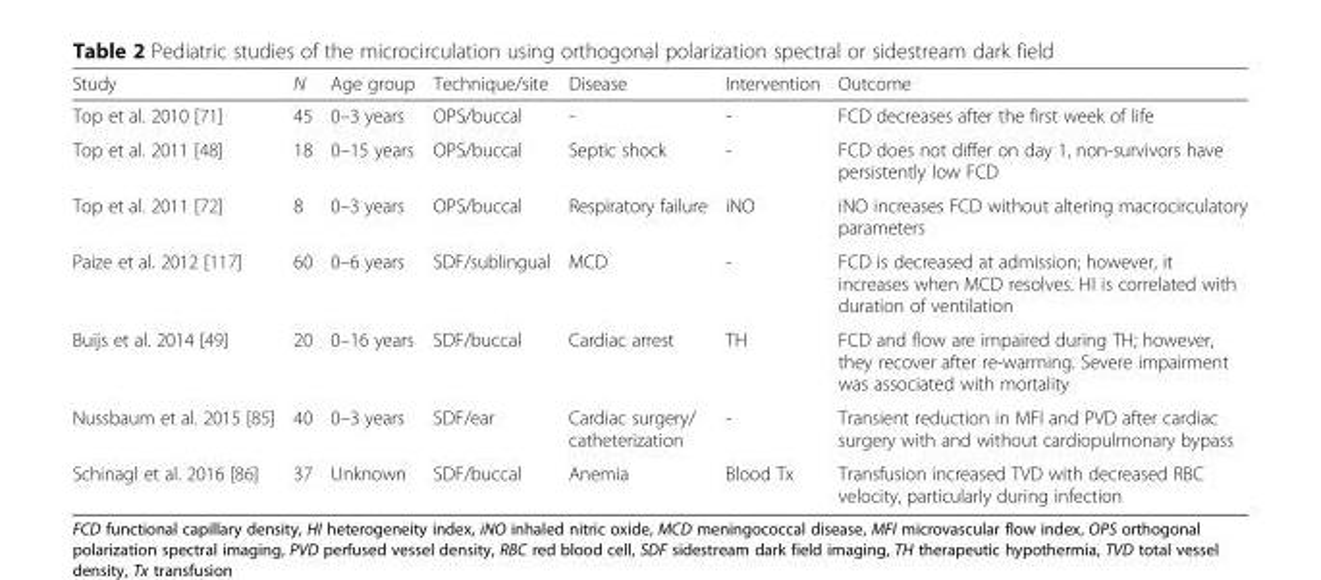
<table><thead><tr><td>Study</td><td>N</td><td>Age group</td><td>Technique/site</td><td>Disease</td><td>Intervention</td><td>Outcome</td></tr></thead><tbody><tr><td>Top et al. 2010 [71]</td><td>45</td><td>0–3 years</td><td>OPS/buccal</td><td>-</td><td>-</td><td>FCD decreases after the first week of life</td></tr><tr><td>Top et al. 2011 [48]</td><td>18</td><td>0–15 years</td><td>OPS/buccal</td><td>Septic shock</td><td>-</td><td>FCD does not differ on day 1, non-survivors have persistently low FCD</td></tr><tr><td>Top et al. 2011 [72]</td><td>8</td><td>0–3 years</td><td>OPS/buccal</td><td>Respiratory failure</td><td>iNO</td><td>iNO increases FCD without altering macrocirculatory parameters</td></tr><tr><td>Paize et al. 2012 [117]</td><td>60</td><td>0–6 years</td><td>SDF/sublingual</td><td>MCD</td><td>-</td><td>FCD is decreased at admission; however, it increases when MCD resolves. HI is correlated with duration of ventilation</td></tr><tr><td>Buijs et al. 2014 [49]</td><td>20</td><td>0–16 years</td><td>SDF/buccal</td><td>Cardiac arrest</td><td>TH</td><td>FCD and flow are impaired during TH; however, they recover after re-warming. Severe impairment was associated with mortality</td></tr><tr><td>Nussbaum et al. 2015 [85]</td><td>40</td><td>0–3 years</td><td>SDF/ear</td><td>Cardiac surgery/ catheterization</td><td>-</td><td>Transient reduction in MFI and PVD after cardiac surgery with and without cardiopulmonary bypass</td></tr><tr><td>Schinagl et al. 2016 [86]</td><td>37</td><td>Unknown</td><td>SDF/buccal</td><td>Anemia</td><td>Blood Tx</td><td>Transfusion increased TVD with decreased RBC velocity, particularly during infection</td></tr></tbody></table>